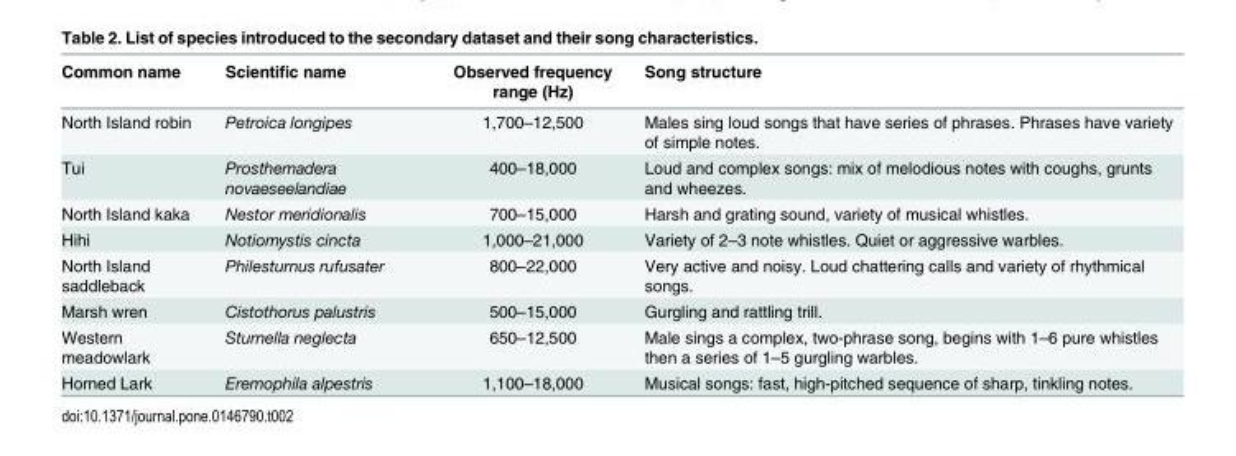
<table><thead><tr><td>Common name</td><td>Scientific name</td><td>Observed frequency range (Hz)</td><td>Song structure</td></tr></thead><tbody><tr><td>North Island robin</td><td>Petroica longipes</td><td>1,700–12,500</td><td>Males sing loud songs that have series of phrases. Phrases have variety of simple notes.</td></tr><tr><td>Tui</td><td>Prosthemadera novaeseelandiae</td><td>400–18,000</td><td>Loud and complex songs: mix of melodious notes with coughs, grunts and wheezes.</td></tr><tr><td>North Island kaka</td><td>Nestor meridionalis</td><td>700–15,000</td><td>Harsh and grating sound, variety of musical whistles.</td></tr><tr><td>Hihi</td><td>Notiomystis cincta</td><td>1,000–21,000</td><td>Variety of 2–3 note whistles. Quiet or aggressive warbles.</td></tr><tr><td>North Island saddleback</td><td>Philesturnus rufusater</td><td>800–22,000</td><td>Very active and noisy. Loud chattering calls and variety of rhythmical songs.</td></tr><tr><td>Marsh wren</td><td>Cistothorus palustris</td><td>500–15,000</td><td>Gurgling and rattling trill.</td></tr><tr><td>Western meadowlark</td><td>Sturnella neglecta</td><td>650–12,500</td><td>Male sings a complex, two-phrase song, begins with 1–6 pure whistles then a series of 1–5 gurgling warbles.</td></tr><tr><td>Horned Lark</td><td>Eremophila alpestris</td><td>1,100–18,000</td><td>Musical songs: fast, high-pitched sequence of sharp, tinkling notes.</td></tr></tbody></table>